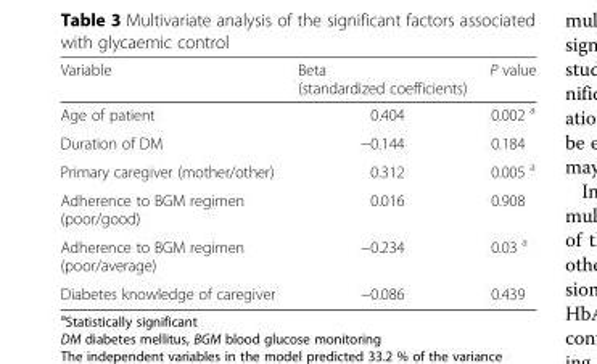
<table><thead><tr><td>Variable</td><td>Beta (standardized coefficients)</td><td>P value</td></tr></thead><tbody><tr><td>Age of patient</td><td>0.404</td><td>0.002 <sup>a</sup></td></tr><tr><td>Duration of DM</td><td>−0.144</td><td>0.184</td></tr><tr><td>Primary caregiver (mother/other)</td><td>0.312</td><td>0.005 <sup>a</sup></td></tr><tr><td>Adherence to BGM regimen (poor/good)</td><td>0.016</td><td>0.908</td></tr><tr><td>Adherence to BGM regimen (poor/average)</td><td>−0.234</td><td>0.03 <sup>a</sup></td></tr><tr><td>Diabetes knowledge of caregiver</td><td>−0.086</td><td>0.439</td></tr></tbody></table>